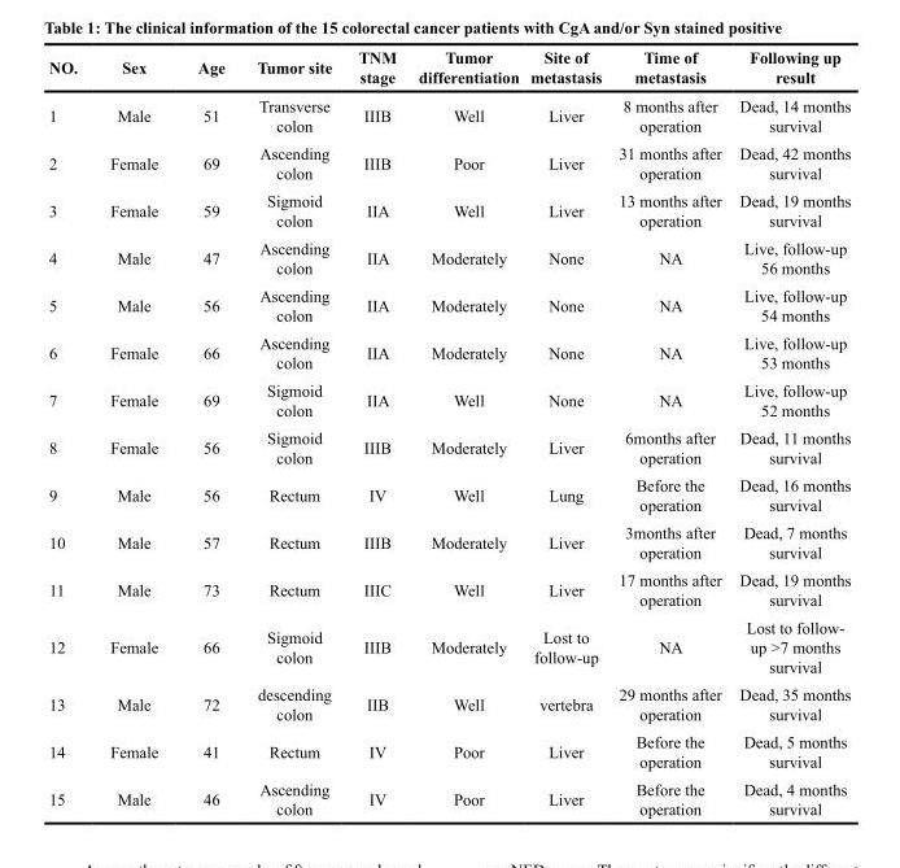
<table><thead><tr><td>NO.</td><td>Sex</td><td>Age</td><td>Tumor site</td><td>TNM stage</td><td>Tumor differentiation</td><td>Site of metastasis</td><td>Time of metastasis</td><td>Following up result</td></tr></thead><tbody><tr><td>1</td><td>Male</td><td>51</td><td>Transverse colon</td><td>IIIB</td><td>Well</td><td>Liver</td><td>8 months after operation</td><td>Dead, 14 months survival</td></tr><tr><td>2</td><td>Female</td><td>69</td><td>Ascending colon</td><td>IIIB</td><td>Poor</td><td>Liver</td><td>31 months after operation</td><td>Dead, 42 months survival</td></tr><tr><td>3</td><td>Female</td><td>59</td><td>Sigmoid colon</td><td>IIA</td><td>Well</td><td>Liver</td><td>13 months after operation</td><td>Dead, 19 months survival</td></tr><tr><td>4</td><td>Male</td><td>47</td><td>Ascending colon</td><td>IIA</td><td>Moderately</td><td>None</td><td>NA</td><td>Live, follow-up 56 months</td></tr><tr><td>5</td><td>Male</td><td>56</td><td>Ascending colon</td><td>IIA</td><td>Moderately</td><td>None</td><td>NA</td><td>Live, follow-up 54 months</td></tr><tr><td>6</td><td>Female</td><td>66</td><td>Ascending colon</td><td>IIA</td><td>Moderately</td><td>None</td><td>NA</td><td>Live, follow-up 53 months</td></tr><tr><td>7</td><td>Female</td><td>69</td><td>Sigmoid colon</td><td>IIA</td><td>Well</td><td>None</td><td>NA</td><td>Live, follow-up 52 months</td></tr><tr><td>8</td><td>Female</td><td>56</td><td>Sigmoid colon</td><td>IIIB</td><td>Moderately</td><td>Liver</td><td>6months after operation</td><td>Dead, 11 months survival</td></tr><tr><td>9</td><td>Male</td><td>56</td><td>Rectum</td><td>IV</td><td>Well</td><td>Lung</td><td>Before the operation</td><td>Dead, 16 months survival</td></tr><tr><td>10</td><td>Male</td><td>57</td><td>Rectum</td><td>IIIB</td><td>Moderately</td><td>Liver</td><td>3months after operation</td><td>Dead, 7 months survival</td></tr><tr><td>11</td><td>Male</td><td>73</td><td>Rectum</td><td>IIIC</td><td>Well</td><td>Liver</td><td>17 months after operation</td><td>Dead, 19 months survival</td></tr><tr><td>12</td><td>Female</td><td>66</td><td>Sigmoid colon</td><td>IIIB</td><td>Moderately</td><td>Lost to follow-up</td><td>NA</td><td>Lost to follow- up &gt;7 months survival</td></tr><tr><td>13</td><td>Male</td><td>72</td><td>descending colon</td><td>IIB</td><td>Well</td><td>vertebra</td><td>29 months after operation</td><td>Dead, 35 months survival</td></tr><tr><td>14</td><td>Female</td><td>41</td><td>Rectum</td><td>IV</td><td>Poor</td><td>Liver</td><td>Before the operation</td><td>Dead, 5 months survival</td></tr><tr><td>15</td><td>Male</td><td>46</td><td>Ascending colon</td><td>IV</td><td>Poor</td><td>Liver</td><td>Before the operation</td><td>Dead, 4 months survival</td></tr></tbody></table>